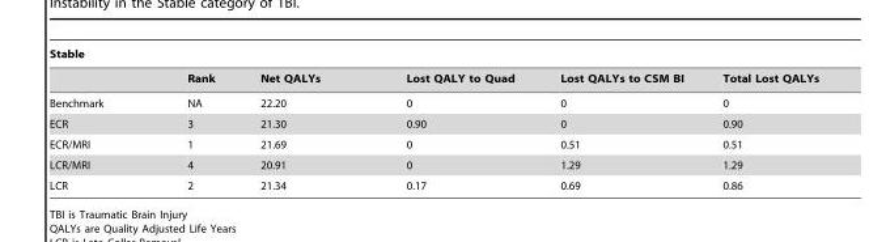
<table><thead><tr><td colspan="6">Stable</td></tr><tr><td></td><td>Rank</td><td>Net QALYs</td><td>Lost QALY to Quad</td><td>Lost QALYs to CSM BI</td><td>Total Lost QALYs</td></tr></thead><tbody><tr><td>Benchmark</td><td>NA</td><td>22.20</td><td>0</td><td>0</td><td>0</td></tr><tr><td>ECR</td><td>3</td><td>21.30</td><td>0.90</td><td>0</td><td>0.90</td></tr><tr><td>ECR/MRI</td><td>1</td><td>21.69</td><td>0</td><td>0.51</td><td>0.51</td></tr><tr><td>LCR/MRI</td><td>4</td><td>20.91</td><td>0</td><td>1.29</td><td>1.29</td></tr><tr><td>LCR</td><td>2</td><td>21.34</td><td>0.17</td><td>0.69</td><td>0.86</td></tr></tbody></table>